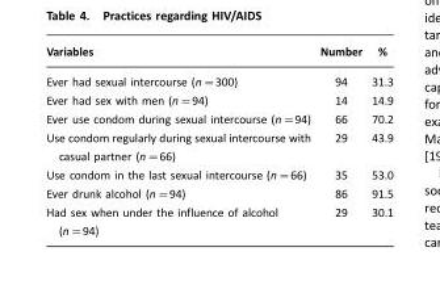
<table><thead><tr><td>Variables</td><td>Number</td><td>%</td></tr></thead><tbody><tr><td>Ever had sexual intercourse (n=300)</td><td>94</td><td>31.3</td></tr><tr><td>Ever had sex with men (n=94)</td><td>14</td><td>14.9</td></tr><tr><td>Ever use condom during sexual intercourse (n=94)</td><td>66</td><td>70.2</td></tr><tr><td>Use condom regularly during sexual intercourse with casual partner (n=66)</td><td>29</td><td>43.9</td></tr><tr><td>Use condom in the last sexual intercourse (n=66)</td><td>35</td><td>53.0</td></tr><tr><td>Ever drunk alcohol (n=94)</td><td>86</td><td>91.5</td></tr><tr><td>Had sex when under the influence of alcohol (n=94)</td><td>29</td><td>30.1</td></tr></tbody></table>